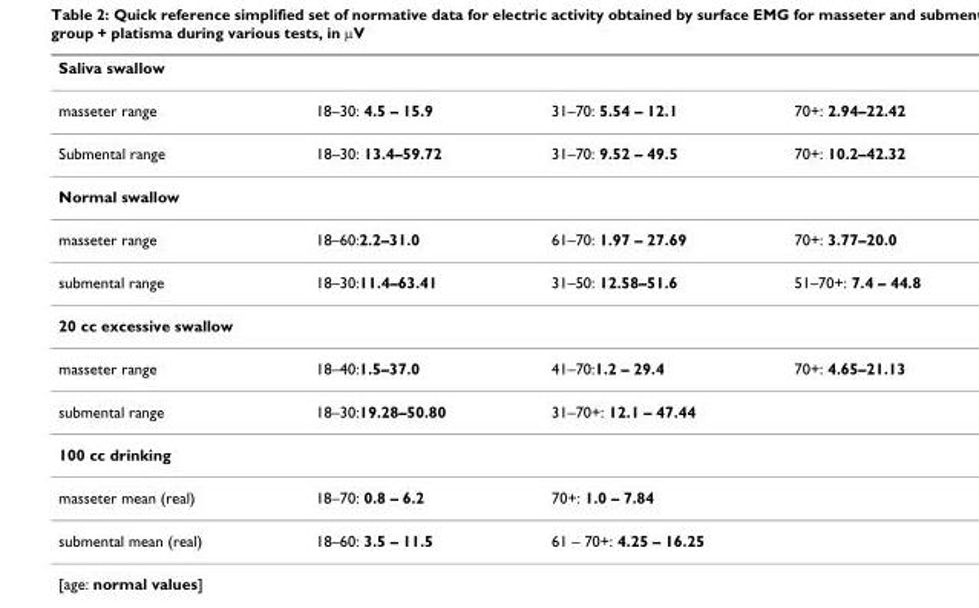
<table><thead><tr><td colspan="4">Saliva swallow</td></tr><tr><td>masseter range</td><td>18–30: 4.5 – 15.9</td><td>31–70: 5.54 – 12.1</td><td>70+: 2.94–22.42</td></tr></thead><tbody><tr><td>Submental range</td><td>18–30: 13.4–59.72</td><td>31–70: 9.52 – 49.5</td><td>70+: 10.2–42.32</td></tr><tr><td colspan="4">Normal swallow</td></tr><tr><td>masseter range</td><td>18–60:2.2–31.0</td><td>61–70: 1.97 – 27.69</td><td>70+: 3.77–20.0</td></tr><tr><td>submental range</td><td>18–30:11.4–63.41</td><td>31–50: 12.58–51.6</td><td>51–70+: 7.4 – 44.8</td></tr><tr><td colspan="4">20 cc excessive swallow</td></tr><tr><td>masseter range</td><td>18–40:1.5–37.0</td><td>41–70:1.2 – 29.4</td><td>70+: 4.65–21.13</td></tr><tr><td>submental range</td><td>18–30:19.28–50.80</td><td colspan="2">31–70+: 12.1 – 47.44</td></tr><tr><td colspan="4">100 cc drinking</td></tr><tr><td>masseter mean (real)</td><td>18–70: 0.8 – 6.2</td><td>70+: 1.0 – 7.84</td><td></td></tr><tr><td>submental mean (real)</td><td>18–60: 3.5 – 11.5</td><td colspan="2">61 – 70+: 4.25 – 16.25</td></tr></tbody></table>